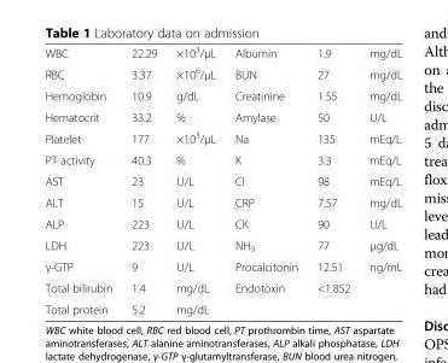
<table><tbody><tr><td>WBC</td><td>22.29</td><td>×10<sup>3</sup>/μL</td><td>Albumin</td><td>1.9</td><td>mg/dL</td></tr><tr><td>RBC</td><td>3.37</td><td>×10<sup>6</sup>/μL</td><td>BUN</td><td>27</td><td>mg/dL</td></tr><tr><td>Hemoglobin</td><td>10.9</td><td>g/dL</td><td>Creatinine</td><td>1.55</td><td>mg/dL</td></tr><tr><td>Hematocrit</td><td>33.2</td><td>%</td><td>Amylase</td><td>50</td><td>U/L</td></tr><tr><td>Platelet</td><td>177</td><td>×10<sup>3</sup>/μL</td><td>Na</td><td>135</td><td>mEq/L</td></tr><tr><td>PT activity</td><td>40.3</td><td>%</td><td>K</td><td>3.3</td><td>mEq/L</td></tr><tr><td>AST</td><td>23</td><td>U/L</td><td>Cl</td><td>98</td><td>mEq/L</td></tr><tr><td>ALT</td><td>15</td><td>U/L</td><td>CRP</td><td>7.57</td><td>mg/dL</td></tr><tr><td>ALP</td><td>223</td><td>U/L</td><td>CK</td><td>90</td><td>U/L</td></tr><tr><td>LDH</td><td>223</td><td>U/L</td><td>NH<sub>3</sub></td><td>77</td><td>μg/dL</td></tr><tr><td>γ-GTP</td><td>9</td><td>U/L</td><td>Procalcitonin</td><td>12.51</td><td>ng/mL</td></tr><tr><td>Total bilirubin</td><td>1.4</td><td>mg/dL</td><td>Endotoxin</td><td>&lt;1.852</td><td></td></tr><tr><td>Total protein</td><td>5.2</td><td>mg/dL</td><td></td><td></td><td></td></tr></tbody></table>